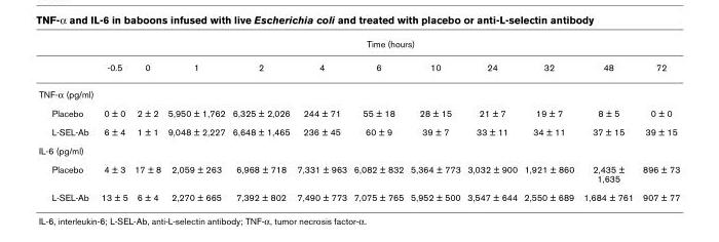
<table><thead><tr><td rowspan="2"></td><td colspan="11">Time (hours)</td></tr><tr><td>-0.5</td><td>0</td><td>1</td><td>2</td><td>4</td><td>6</td><td>10</td><td>24</td><td>32</td><td>48</td><td>72</td></tr></thead><tbody><tr><td colspan="12">TNF-α (pg/ml)</td></tr><tr><td>Placebo</td><td>0 ± 0</td><td>2 ± 2</td><td>5,950 ± 1,762</td><td>6,325 ± 2,026</td><td>244 ± 71</td><td>55 ± 18</td><td>28 ± 15</td><td>21 ± 7</td><td>19 ± 7</td><td>8 ± 5</td><td>0 ± 0</td></tr><tr><td>L-SEL-Ab</td><td>6 ± 4</td><td>1 ± 1</td><td>9,048 ± 2,227</td><td>6,648 ± 1,465</td><td>236 ± 45</td><td>60 ± 9</td><td>39 ± 7</td><td>33 ± 11</td><td>34 ± 11</td><td>37 ± 15</td><td>39 ± 15</td></tr><tr><td colspan="12">IL-6 (pg/ml)</td></tr><tr><td>Placebo</td><td>4 ± 3</td><td>17 ± 8</td><td>2,059 ± 263</td><td>6,968 ± 718</td><td>7,331 ± 963</td><td>6,082 ± 832</td><td>5,364 ± 773</td><td>3,032 ± 900</td><td>1,921 ± 860</td><td>2,435 ± 1,635</td><td>896 ± 73</td></tr><tr><td>L-SEL-Ab</td><td>13 ± 5</td><td>6 ± 4</td><td>2,270 ± 665</td><td>7,392 ± 802</td><td>7,490 ± 773</td><td>7,075 ± 765</td><td>5,952 ± 500</td><td>3,547 ± 644</td><td>2,550 ± 689</td><td>1,684 ± 761</td><td>907 ± 77</td></tr></tbody></table>